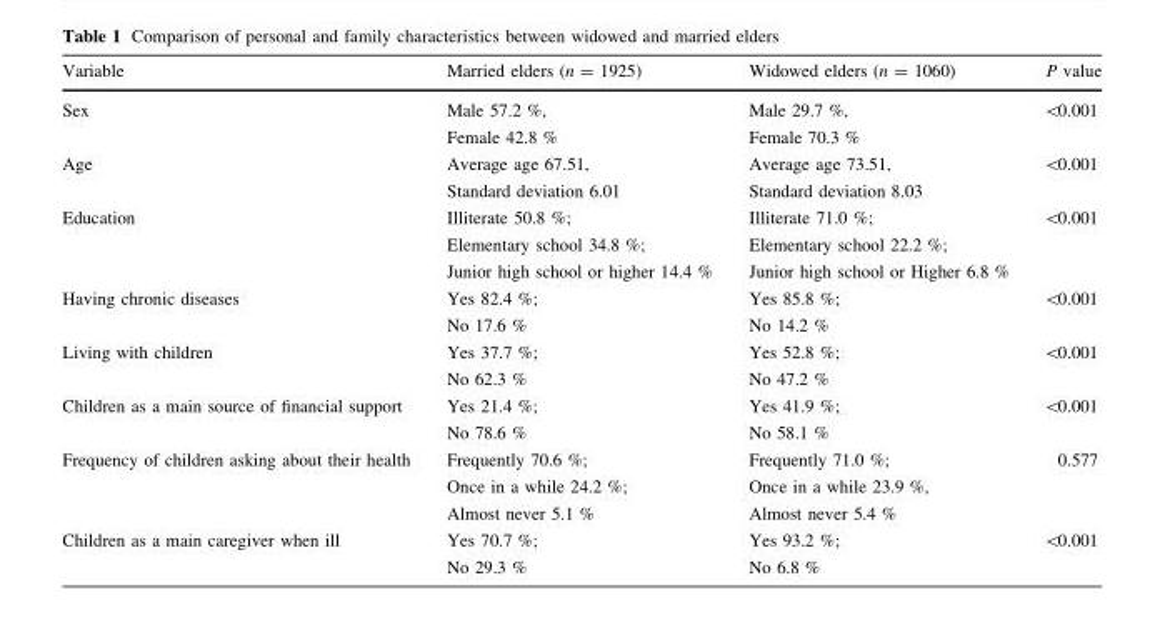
<table><thead><tr><td>Variable</td><td>Married elders (n = 1925)</td><td>Widowed elders (n = 1060)</td><td>P value</td></tr></thead><tbody><tr><td>Sex</td><td>Male 57.2 %, Female 42.8 %</td><td>Male 29.7 %, Female 70.3 %</td><td>&lt;0.001</td></tr><tr><td>Age</td><td>Average age 67.51, Standard deviation 6.01</td><td>Average age 73.51, Standard deviation 8.03</td><td>&lt;0.001</td></tr><tr><td>Education</td><td>Illiterate 50.8 %; Elementary school 34.8 %; Junior high school or higher 14.4 %</td><td>Illiterate 71.0 %; Elementary school 22.2 %; Junior high school or Higher 6.8 %</td><td>&lt;0.001</td></tr><tr><td>Having chronic diseases</td><td>Yes 82.4 %; No 17.6 %</td><td>Yes 85.8 %; No 14.2 %</td><td>&lt;0.001</td></tr><tr><td>Living with children</td><td>Yes 37.7 %; No 62.3 %</td><td>Yes 52.8 %; No 47.2 %</td><td>&lt;0.001</td></tr><tr><td>Children as a main source of financial support</td><td>Yes 21.4 %; No 78.6 %</td><td>Yes 41.9 %; No 58.1 %</td><td>&lt;0.001</td></tr><tr><td>Frequency of children asking about their health</td><td>Frequently 70.6 %; Once in a while 24.2 %; Almost never 5.1 %</td><td>Frequently 71.0 %; Once in a while 23.9 %, Almost never 5.4 %</td><td>0.577</td></tr><tr><td>Children as a main caregiver when ill</td><td>Yes 70.7 %; No 29.3 %</td><td>Yes 93.2 %; No 6.8 %</td><td>&lt;0.001</td></tr></tbody></table>